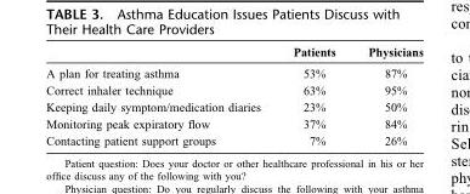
<table><thead><tr><td></td><td>Patients</td><td>Physicians</td></tr></thead><tbody><tr><td>A plan for treating asthma</td><td>53%</td><td>87%</td></tr><tr><td>Correct inhaler technique</td><td>63%</td><td>95%</td></tr><tr><td>Keeping daily symptom/medication diaries</td><td>23%</td><td>50%</td></tr><tr><td>Monitoring peak expiratory flow</td><td>37%</td><td>84%</td></tr><tr><td>Contacting patient support groups</td><td>7%</td><td>26%</td></tr></tbody></table>